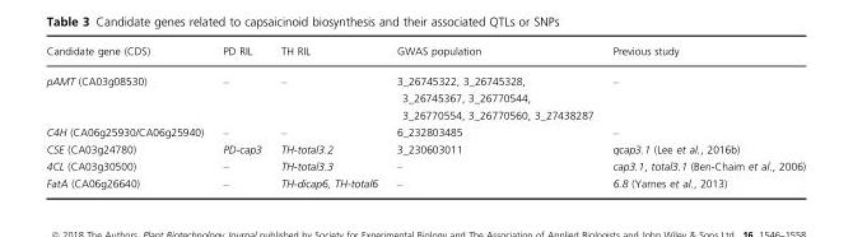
<table><thead><tr><td>Candidate gene (CDS)</td><td>PD RIL</td><td>TH RIL</td><td>GWAS population</td><td>Previous study</td></tr></thead><tbody><tr><td>pAMT (CA03g08530)</td><td>–</td><td>–</td><td>3_26745322, 3_26745328, 3_26745367, 3_26770544, 3_26770554, 3_26770560, 3_27438287</td><td>–</td></tr><tr><td>C4H (CA06g25930/CA06g25940)</td><td>–</td><td>–</td><td>6_232803485</td><td>–</td></tr><tr><td>CSE (CA03g24780)</td><td>PD-cap3</td><td>TH-total3.2</td><td>3_230603011</td><td>qcap3.1 (Lee et al., 2016b)</td></tr><tr><td>4CL (CA03g30500)</td><td>–</td><td>TH-total3.3</td><td>–</td><td>cap3.1, total3.1 (Ben-Chaim et al., 2006)</td></tr><tr><td>FatA (CA06g26640)</td><td>–</td><td>TH-dicap6, TH-total6</td><td>–</td><td>6.8 (Yarnes et al., 2013)</td></tr></tbody></table>